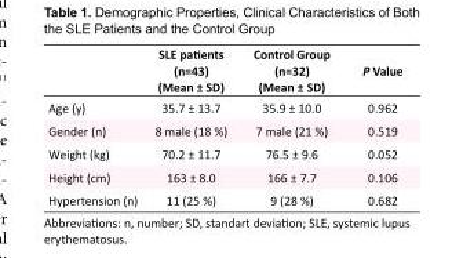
<table><thead><tr><td></td><td>SLE patients (n=43) (Mean ± SD)</td><td>Control Group (n=32) (Mean ± SD)</td><td>P Value</td></tr></thead><tbody><tr><td>Age (y)</td><td>35.7 ± 13.7</td><td>35.9 ± 10.0</td><td>0.962</td></tr><tr><td>Gender (n)</td><td>8 male (18 %)</td><td>7 male (21 %)</td><td>0.519</td></tr><tr><td>Weight (kg)</td><td>70.2 ± 11.7</td><td>76.5 ± 9.6</td><td>0.052</td></tr><tr><td>Height (cm)</td><td>163 ± 8.0</td><td>166 ± 7.7</td><td>0.106</td></tr><tr><td>Hypertension (n)</td><td>11 (25 %)</td><td>9 (28 %)</td><td>0.682</td></tr></tbody></table>